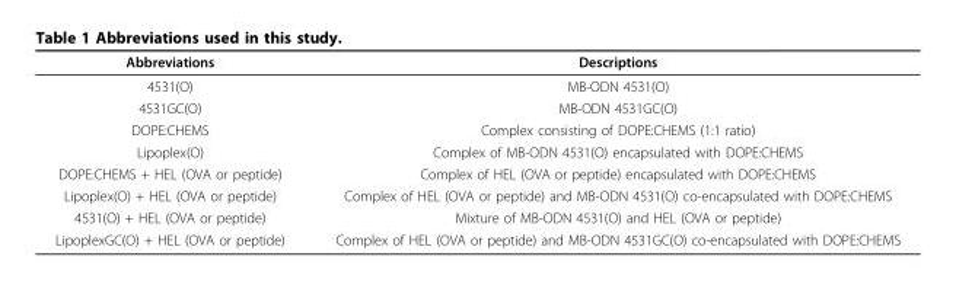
<table><thead><tr><td>Abbreviations</td><td>Descriptions</td></tr></thead><tbody><tr><td>4531(O)</td><td>MB-ODN 4531(O)</td></tr><tr><td>4531GC(O)</td><td>MB-ODN 4531GC(O)</td></tr><tr><td>DOPE:CHEMS</td><td>Complex consisting of DOPE:CHEMS (1:1 ratio)</td></tr><tr><td>Lipoplex(O)</td><td>Complex of MB-ODN 4531(O) encapsulated with DOPE:CHEMS</td></tr><tr><td>DOPE:CHEMS + HEL (OVA or peptide)</td><td>Complex of HEL (OVA or peptide) encapsulated with DOPE:CHEMS</td></tr><tr><td>Lipoplex(O) + HEL (OVA or peptide)</td><td>Complex of HEL (OVA or peptide) and MB-ODN 4531(O) co-encapsulated with DOPE:CHEMS</td></tr><tr><td>4531(O) + HEL (OVA or peptide)</td><td>Mixture of MB-ODN 4531(O) and HEL (OVA or peptide)</td></tr><tr><td>LipoplexGC(O) + HEL (OVA or peptide)</td><td>Complex of HEL (OVA or peptide) and MB-ODN 4531GC(O) co-encapsulated with DOPE:CHEMS</td></tr></tbody></table>